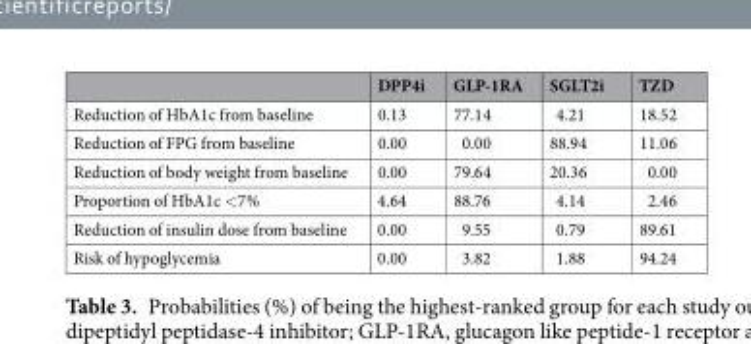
<table><thead><tr><td></td><td>DPP4i</td><td>GLP-1RA</td><td>SGLT2i</td><td>TZD</td></tr></thead><tbody><tr><td>Reduction of HbA1c from baseline</td><td>0.13</td><td>77.14</td><td>4.21</td><td>18.52</td></tr><tr><td>Reduction of FPG from baseline</td><td>0.00</td><td>0.00</td><td>88.94</td><td>11.06</td></tr><tr><td>Reduction of body weight from baseline</td><td>0.00</td><td>79.64</td><td>20.36</td><td>0.00</td></tr><tr><td>Proportion of HbA1c &lt;7%</td><td>4.64</td><td>88.76</td><td>4.14</td><td>2.46</td></tr><tr><td>Reduction of insulin dose from baseline</td><td>0.00</td><td>9.55</td><td>0.79</td><td>89.61</td></tr><tr><td>Risk of hypoglycemia</td><td>0.00</td><td>3.82</td><td>1.88</td><td>94.24</td></tr></tbody></table>